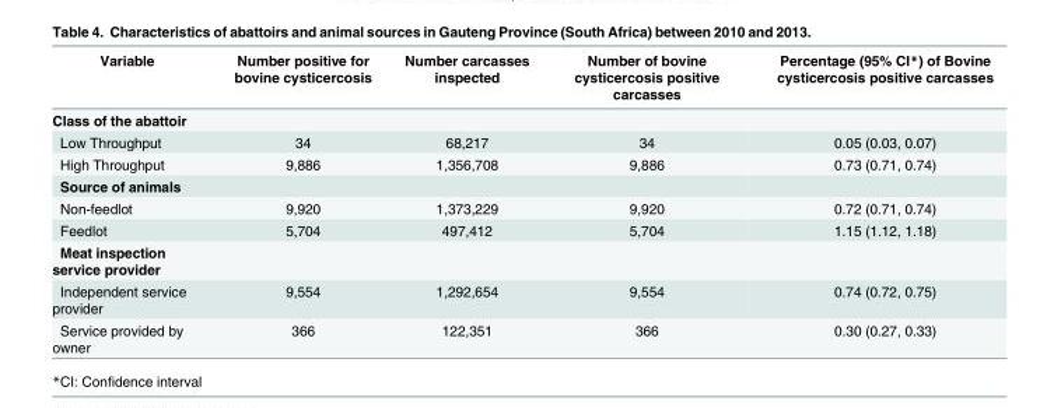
<table><thead><tr><td>Variable</td><td>Number positive for bovine cysticercosis</td><td>Number carcasses inspected</td><td>Number of bovine cysticercosis positive carcasses</td><td>Percentage (95% CI*) of Bovine cysticercosis positive carcasses</td></tr></thead><tbody><tr><td colspan="5">Class of the abattoir</td></tr><tr><td>Low Throughput</td><td>34</td><td>68,217</td><td>34</td><td>0.05 (0.03, 0.07)</td></tr><tr><td>High Throughput</td><td>9,886</td><td>1,356,708</td><td>9,886</td><td>0.73 (0.71, 0.74)</td></tr><tr><td colspan="5">Source of animals</td></tr><tr><td>Non-feedlot</td><td>9,920</td><td>1,373,229</td><td>9,920</td><td>0.72 (0.71, 0.74)</td></tr><tr><td>Feedlot</td><td>5,704</td><td>497,412</td><td>5,704</td><td>1.15 (1.12, 1.18)</td></tr><tr><td colspan="5">Meat inspection service provider</td></tr><tr><td>Independent service provider</td><td>9,554</td><td>1,292,654</td><td>9,554</td><td>0.74 (0.72, 0.75)</td></tr><tr><td>Service provided by owner</td><td>366</td><td>122,351</td><td>366</td><td>0.30 (0.27, 0.33)</td></tr></tbody></table>